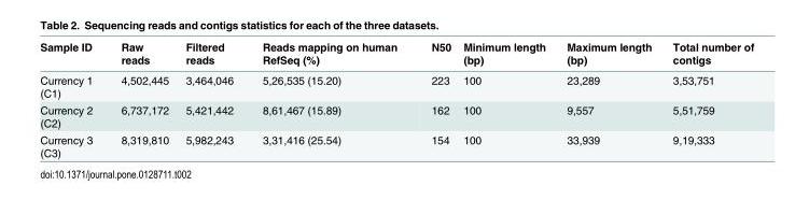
<table><thead><tr><td>Sample ID</td><td>Raw reads</td><td>Filtered reads</td><td>Reads mapping on human RefSeq (%)</td><td>N50</td><td>Minimum length (bp)</td><td>Maximum length (bp)</td><td>Total number of contigs</td></tr></thead><tbody><tr><td>Currency 1 (C1)</td><td>4,502,445</td><td>3,464,046</td><td>5,26,535 (15.20)</td><td>223</td><td>100</td><td>23,289</td><td>3,53,751</td></tr><tr><td>Currency 2 (C2)</td><td>6,737,172</td><td>5,421,442</td><td>8,61,467 (15.89)</td><td>162</td><td>100</td><td>9,557</td><td>5,51,759</td></tr><tr><td>Currency 3 (C3)</td><td>8,319,810</td><td>5,982,243</td><td>3,31,416 (25.54)</td><td>154</td><td>100</td><td>33,939</td><td>9,19,333</td></tr></tbody></table>